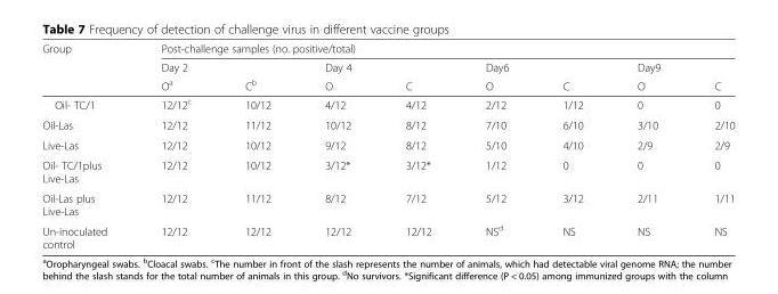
<table><thead><tr><td rowspan="3">Group</td><td colspan="8">Post-challenge samples (no. positive/total)</td></tr><tr><td rowspan="2">Day 2 O<sup>a</sup></td><td rowspan="2">C<sup>b</sup></td><td rowspan="2">Day 4 O</td><td rowspan="2">C</td><td rowspan="2">Day6 O</td><td rowspan="2">C</td><td rowspan="2">Day9 O</td><td rowspan="2">C</td></tr><tr></tr></thead><tbody><tr><td>Oil- TC/1</td><td>12/12<sup>c</sup></td><td>10/12</td><td>4/12</td><td>4/12</td><td>2/12</td><td>1/12</td><td>0</td><td>0</td></tr><tr><td>Oil-Las</td><td>12/12</td><td>11/12</td><td>10/12</td><td>8/12</td><td>7/10</td><td>6/10</td><td>3/10</td><td>2/10</td></tr><tr><td>Live-Las</td><td>12/12</td><td>10/12</td><td>9/12</td><td>8/12</td><td>5/10</td><td>4/10</td><td>2/9</td><td>2/9</td></tr><tr><td>Oil- TC/1plus Live-Las</td><td>12/12</td><td>10/12</td><td>3/12*</td><td>3/12*</td><td>1/12</td><td>0</td><td>0</td><td>0</td></tr><tr><td>Oil-Las plus Live-Las</td><td>12/12</td><td>11/12</td><td>8/12</td><td>7/12</td><td>5/12</td><td>3/12</td><td>2/11</td><td>1/11</td></tr><tr><td>Un-inoculated control</td><td>12/12</td><td>12/12</td><td>12/12</td><td>12/12</td><td>NS<sup>d</sup></td><td>NS</td><td>NS</td><td>NS</td></tr></tbody></table>